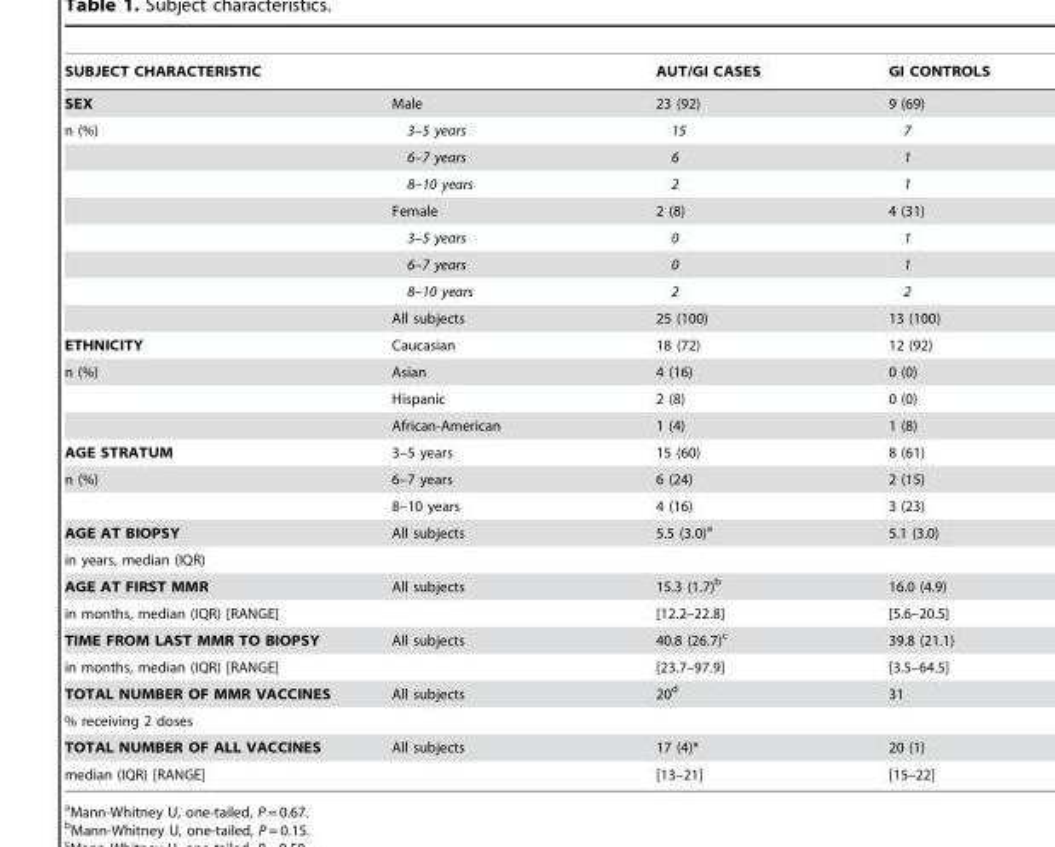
<table><thead><tr><td colspan="2">SUBJECT CHARACTERISTIC</td><td rowspan="2">AUT/GI CASES 23 (92)</td><td rowspan="2">GI CONTROLS 9 (69)</td></tr><tr><td>SEX</td><td>Male</td></tr></thead><tbody><tr><td rowspan="8">n (%)</td><td>3–5 years</td><td>15</td><td>7</td></tr><tr><td>6–7 years</td><td>6</td><td>1</td></tr><tr><td>8–10 years</td><td>2</td><td>1</td></tr><tr><td>Female</td><td>2 (8)</td><td>4 (31)</td></tr><tr><td>3–5 years</td><td>0</td><td>1</td></tr><tr><td>6–7 years</td><td>0</td><td>1</td></tr><tr><td>8–10 years</td><td>2</td><td>2</td></tr><tr><td>All subjects</td><td>25 (100)</td><td>13 (100)</td></tr><tr><td>ETHNICITY</td><td>Caucasian</td><td>18 (72)</td><td>12 (92)</td></tr><tr><td rowspan="3">n (%)</td><td>Asian</td><td>4 (16)</td><td>0 (0)</td></tr><tr><td>Hispanic</td><td>2 (8)</td><td>0 (0)</td></tr><tr><td>African-American</td><td>1 (4)</td><td>1 (8)</td></tr><tr><td>AGE STRATUM</td><td>3–5 years</td><td>15 (60)</td><td>8 (61)</td></tr><tr><td rowspan="2">n (%)</td><td>6–7 years</td><td>6 (24)</td><td>2 (15)</td></tr><tr><td>8–10 years</td><td>4 (16)</td><td>3 (23)</td></tr><tr><td>AGE AT BIOPSY</td><td>All subjects</td><td>5.5 (3.0)<sup>a</sup></td><td>5.1 (3.0)</td></tr><tr><td colspan="4">in years, median (IQR)</td></tr><tr><td>AGE AT FIRST MMR</td><td>All subjects</td><td>15.3 (1.7)<sup>b</sup></td><td>16.0 (4.9)</td></tr><tr><td>in months, median (IQR) [RANGE]</td><td></td><td>[12.2–22.8]</td><td>[5.6–20.5]</td></tr><tr><td>TIME FROM LAST MMR TO BIOPSY</td><td>All subjects</td><td>40.8 (26.7)<sup>c</sup></td><td>39.8 (21.1)</td></tr><tr><td>in months, median (IQR) [RANGE]</td><td></td><td>[23.7–97.9]</td><td>[3.5–64.5]</td></tr><tr><td>TOTAL NUMBER OF MMR VACCINES</td><td>All subjects</td><td>20<sup>d</sup></td><td>31</td></tr><tr><td colspan="4">% receiving 2 doses</td></tr><tr><td>TOTAL NUMBER OF ALL VACCINES</td><td>All subjects</td><td>17 (4)*</td><td>20 (1)</td></tr><tr><td>median (IQR) [RANGE]</td><td></td><td>[13–21]</td><td>[15–22]</td></tr></tbody></table>